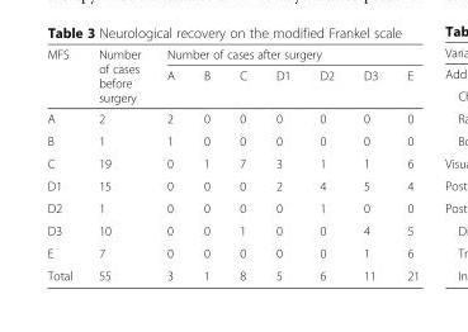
<table><thead><tr><td rowspan="2">MFS</td><td rowspan="2">Number of cases before surgery</td><td colspan="7">Number of cases after surgery</td></tr><tr><td>A</td><td>B</td><td>C</td><td>D1</td><td>D2</td><td>D3</td><td>E</td></tr></thead><tbody><tr><td>A</td><td>2</td><td>2</td><td>0</td><td>0</td><td>0</td><td>0</td><td>0</td><td>0</td></tr><tr><td>B</td><td>1</td><td>1</td><td>0</td><td>0</td><td>0</td><td>0</td><td>0</td><td>0</td></tr><tr><td>C</td><td>19</td><td>0</td><td>1</td><td>7</td><td>3</td><td>1</td><td>1</td><td>6</td></tr><tr><td>D1</td><td>15</td><td>0</td><td>0</td><td>0</td><td>2</td><td>4</td><td>5</td><td>4</td></tr><tr><td>D2</td><td>1</td><td>0</td><td>0</td><td>0</td><td>0</td><td>1</td><td>0</td><td>0</td></tr><tr><td>D3</td><td>10</td><td>0</td><td>0</td><td>1</td><td>0</td><td>0</td><td>4</td><td>5</td></tr><tr><td>E</td><td>7</td><td>0</td><td>0</td><td>0</td><td>0</td><td>0</td><td>1</td><td>6</td></tr><tr><td>Total</td><td>55</td><td>3</td><td>1</td><td>8</td><td>5</td><td>6</td><td>11</td><td>21</td></tr></tbody></table>